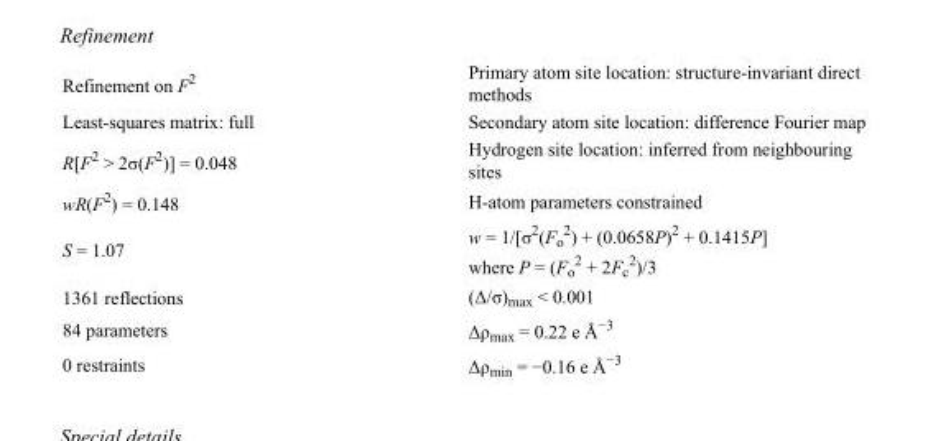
<table><tbody><tr><td>Refinement on F<sup>2</sup></td><td>Primary atom site location: structure-invariant direct methods</td></tr><tr><td>Least-squares matrix: full</td><td>Secondary atom site location: difference Fourier map</td></tr><tr><td>R[F<sup>2</sup> &gt; 2σ(F<sup>2</sup>)] = 0.048</td><td>Hydrogen site location: inferred from neighbouring sites</td></tr><tr><td>wR(F<sup>2</sup>) = 0.148</td><td>H-atom parameters constrained</td></tr><tr><td>S = 1.07</td><td>w = 1/[σ<sup>2</sup>(F<sub>o</sub> <sup>2</sup>) + (0.0658P)<sup>2</sup> + 0.1415P] where P = (F<sub>o</sub> <sup>2</sup> + 2F<sub>c</sub> <sup>2</sup>)/3</td></tr><tr><td>1361 reflections</td><td>(Δ/σ)<sub>max</sub> &lt; 0.001</td></tr><tr><td>84 parameters</td><td>Δρ<sub>max</sub> = 0.22 e Å<sup>−3</sup></td></tr><tr><td>0 restraints</td><td>Δρ<sub>min</sub> = −0.16 e Å<sup>−3</sup></td></tr></tbody></table>